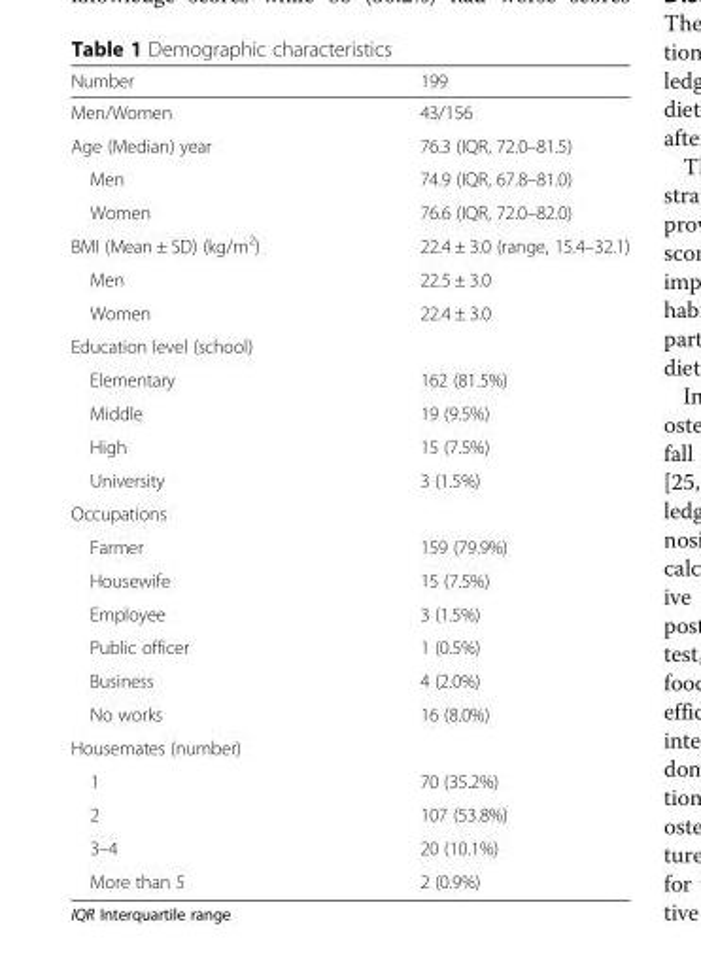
<table><thead><tr><td>Number</td><td>199</td></tr></thead><tbody><tr><td>Men/Women</td><td>43/156</td></tr><tr><td>Age (Median) year</td><td>76.3 (IQR, 72.0–81.5)</td></tr><tr><td>Men</td><td>74.9 (IQR, 67.8–81.0)</td></tr><tr><td>Women</td><td>76.6 (IQR, 72.0–82.0)</td></tr><tr><td>BMI (Mean ± SD) (kg/m<sup>2</sup>)</td><td>22.4 ± 3.0 (range, 15.4–32.1)</td></tr><tr><td>Men</td><td>22.5 ± 3.0</td></tr><tr><td>Women</td><td>22.4 ± 3.0</td></tr><tr><td colspan="2">Education level (school)</td></tr><tr><td>Elementary</td><td>162 (81.5%)</td></tr><tr><td>Middle</td><td>19 (9.5%)</td></tr><tr><td>High</td><td>15 (7.5%)</td></tr><tr><td>University</td><td>3 (1.5%)</td></tr><tr><td colspan="2">Occupations</td></tr><tr><td>Farmer</td><td>159 (79.9%)</td></tr><tr><td>Housewife</td><td>15 (7.5%)</td></tr><tr><td>Employee</td><td>3 (1.5%)</td></tr><tr><td>Public officer</td><td>1 (0.5%)</td></tr><tr><td>Business</td><td>4 (2.0%)</td></tr><tr><td>No works</td><td>16 (8.0%)</td></tr><tr><td colspan="2">Housemates (number)</td></tr><tr><td>1</td><td>70 (35.2%)</td></tr><tr><td>2</td><td>107 (53.8%)</td></tr><tr><td>3–4</td><td>20 (10.1%)</td></tr><tr><td>More than 5</td><td>2 (0.9%)</td></tr></tbody></table>